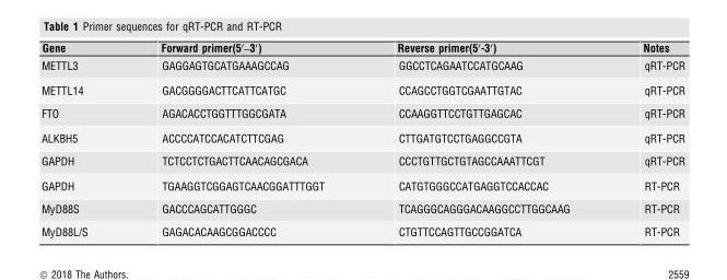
<table><thead><tr><td>Gene</td><td>Forward primer(5′–3′)</td><td>Reverse primer(5′-3′)</td><td>Notes</td></tr></thead><tbody><tr><td>METTL3</td><td>GAGGAGTGCATGAAAGCCAG</td><td>GGCCTCAGAATCCATGCAAG</td><td>qRT-PCR</td></tr><tr><td>METTL14</td><td>GACGGGGACTTCATTCATGC</td><td>CCAGCCTGGTCGAATTGTAC</td><td>qRT-PCR</td></tr><tr><td>FTO</td><td>AGACACCTGGTTTGGCGATA</td><td>CCAAGGTTCCTGTTGAGCAC</td><td>qRT-PCR</td></tr><tr><td>ALKBH5</td><td>ACCCCATCCACATCTTCGAG</td><td>CTTGATGTCCTGAGGCCGTA</td><td>qRT-PCR</td></tr><tr><td>GAPDH</td><td>TCTCCTCTGACTTCAACAGCGACA</td><td>CCCTGTTGCTGTAGCCAAATTCGT</td><td>qRT-PCR</td></tr><tr><td>GAPDH</td><td>TGAAGGTCGGAGTCAACGGATTTGGT</td><td>CATGTGGGCCATGAGGTCCACCAC</td><td>RT-PCR</td></tr><tr><td>MyD88S</td><td>GACCCAGCATTGGGC</td><td>TCAGGGCAGGGACAAGGCCTTGGCAAG</td><td>RT-PCR</td></tr><tr><td>MyD88L/S</td><td>GAGACACAAGCGGACCCC</td><td>CTGTTCCAGTTGCCGGATCA</td><td>RT-PCR</td></tr></tbody></table>